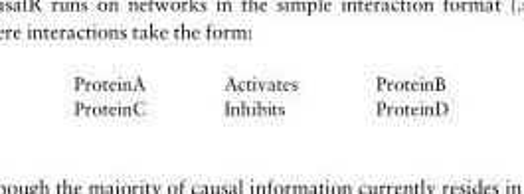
<table><tbody><tr><td>ProteinA</td><td>Activates</td><td>ProteinB</td></tr><tr><td>ProteinC</td><td>Inhibits</td><td>ProteinD</td></tr></tbody></table>